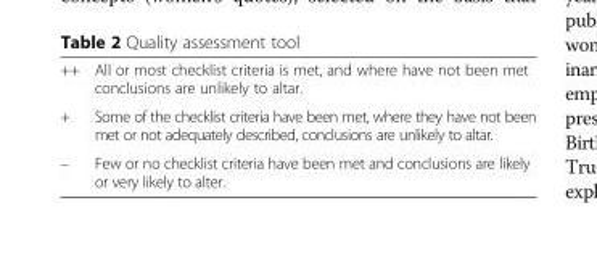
<table><tbody><tr><td>++</td><td>All or most checklist criteria is met, and where have not been met conclusions are unlikely to altar.</td></tr><tr><td>+</td><td>Some of the checklist criteria have been met, where they have not been met or not adequately described, conclusions are unlikely to altar.</td></tr><tr><td>–</td><td>Few or no checklist criteria have been met and conclusions are likely or very likely to alter.</td></tr></tbody></table>